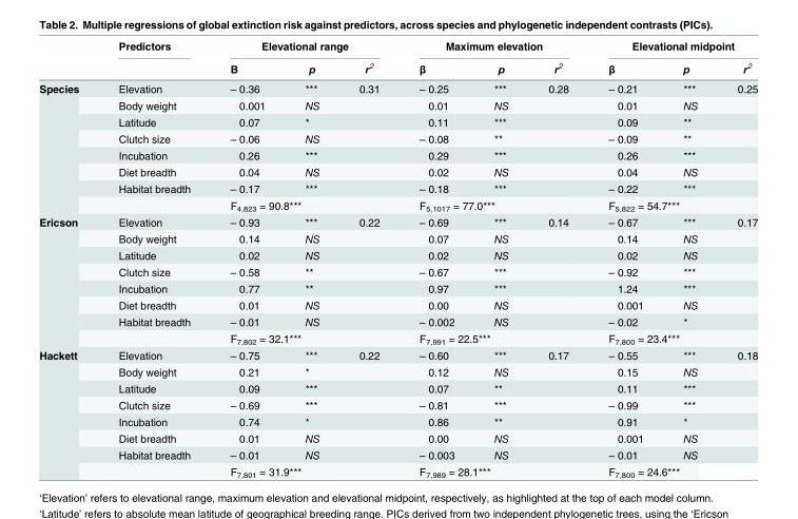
<table><thead><tr><td rowspan="2"></td><td rowspan="2">Predictors</td><td colspan="3">Elevational range</td><td colspan="3">Maximum elevation</td><td colspan="3">Elevational midpoint</td></tr><tr><td>B</td><td>p</td><td>r<sup>2</sup></td><td>β</td><td>p</td><td>r<sup>2</sup></td><td>β</td><td>p</td><td>r<sup>2</sup></td></tr></thead><tbody><tr><td rowspan="8">Species</td><td>Elevation</td><td>– 0.36</td><td>***</td><td>0.31</td><td>– 0.25</td><td>***</td><td>0.28</td><td>– 0.21</td><td>***</td><td>0.25</td></tr><tr><td>Body weight</td><td>0.001</td><td>NS</td><td></td><td>0.01</td><td>NS</td><td></td><td>0.01</td><td>NS</td><td></td></tr><tr><td>Latitude</td><td>0.07</td><td>*</td><td></td><td>0.11</td><td>***</td><td></td><td>0.09</td><td>**</td><td></td></tr><tr><td>Clutch size</td><td>– 0.06</td><td>NS</td><td></td><td>– 0.08</td><td>**</td><td></td><td>– 0.09</td><td>**</td><td></td></tr><tr><td>Incubation</td><td>0.26</td><td>***</td><td></td><td>0.29</td><td>***</td><td></td><td>0.26</td><td>***</td><td></td></tr><tr><td>Diet breadth</td><td>0.04</td><td>NS</td><td></td><td>0.02</td><td>NS</td><td></td><td>0.04</td><td>NS</td><td></td></tr><tr><td>Habitat breadth</td><td>– 0.17</td><td>***</td><td></td><td>– 0.18</td><td>***</td><td></td><td>– 0.22</td><td>***</td><td></td></tr><tr><td></td><td colspan="3">F<sub>4,823</sub> = 90.8***</td><td colspan="3">F<sub>5,1017</sub> = 77.0***</td><td colspan="3">F<sub>5,822</sub> = 54.7***</td></tr><tr><td rowspan="8">Ericson</td><td>Elevation</td><td>– 0.93</td><td>***</td><td>0.22</td><td>– 0.69</td><td>***</td><td>0.14</td><td>– 0.67</td><td>***</td><td>0.17</td></tr><tr><td>Body weight</td><td>0.14</td><td>NS</td><td></td><td>0.07</td><td>NS</td><td></td><td>0.14</td><td>NS</td><td></td></tr><tr><td>Latitude</td><td>0.02</td><td>NS</td><td></td><td>0.02</td><td>NS</td><td></td><td>0.02</td><td>NS</td><td></td></tr><tr><td>Clutch size</td><td>– 0.58</td><td>**</td><td></td><td>– 0.67</td><td>***</td><td></td><td>– 0.92</td><td>***</td><td></td></tr><tr><td>Incubation</td><td>0.77</td><td>**</td><td></td><td>0.97</td><td>***</td><td></td><td>1.24</td><td>***</td><td></td></tr><tr><td>Diet breadth</td><td>0.01</td><td>NS</td><td></td><td>0.00</td><td>NS</td><td></td><td>0.001</td><td>NS</td><td></td></tr><tr><td>Habitat breadth</td><td>– 0.01</td><td>NS</td><td></td><td>– 0.002</td><td>NS</td><td></td><td>– 0.02</td><td>*</td><td></td></tr><tr><td></td><td colspan="3">F<sub>7,802</sub> = 32.1***</td><td colspan="3">F<sub>7,991</sub> = 22.5***</td><td colspan="3">F<sub>7,800</sub> = 23.4***</td></tr><tr><td rowspan="8">Hackett</td><td>Elevation</td><td>– 0.75</td><td>***</td><td>0.22</td><td>– 0.60</td><td>***</td><td>0.17</td><td>– 0.55</td><td>***</td><td>0.18</td></tr><tr><td>Body weight</td><td>0.21</td><td>*</td><td></td><td>0.12</td><td>NS</td><td></td><td>0.15</td><td>NS</td><td></td></tr><tr><td>Latitude</td><td>0.09</td><td>***</td><td></td><td>0.07</td><td>**</td><td></td><td>0.11</td><td>***</td><td></td></tr><tr><td>Clutch size</td><td>– 0.69</td><td>***</td><td></td><td>– 0.81</td><td>***</td><td></td><td>– 0.99</td><td>***</td><td></td></tr><tr><td>Incubation</td><td>0.74</td><td>*</td><td></td><td>0.86</td><td>**</td><td></td><td>0.91</td><td>*</td><td></td></tr><tr><td>Diet breadth</td><td>0.01</td><td>NS</td><td></td><td>0.00</td><td>NS</td><td></td><td>0.001</td><td>NS</td><td></td></tr><tr><td>Habitat breadth</td><td>– 0.01</td><td>NS</td><td></td><td>– 0.003</td><td>NS</td><td></td><td>– 0.01</td><td>NS</td><td></td></tr><tr><td></td><td colspan="3">F<sub>7,801</sub> = 31.9***</td><td colspan="3">F<sub>7,989</sub> = 28.1***</td><td colspan="3">F<sub>7,800</sub> = 24.6***</td></tr></tbody></table>